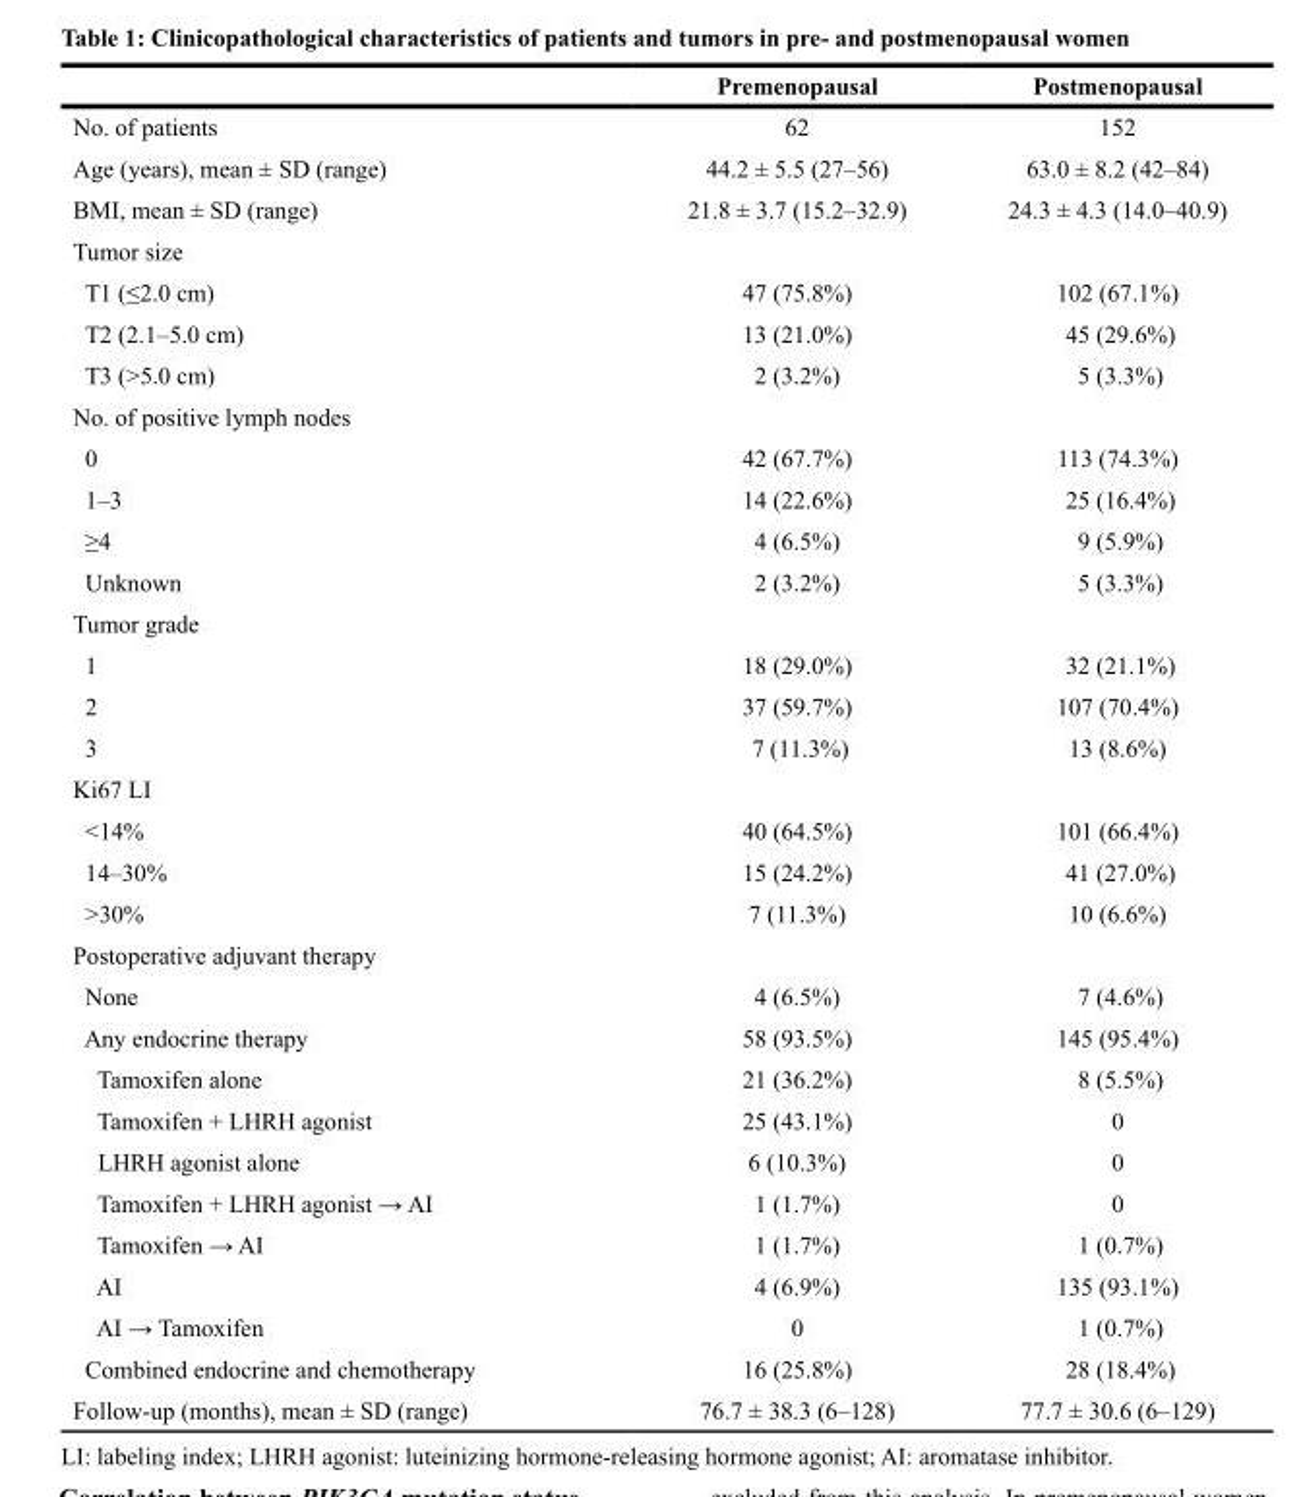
<table><thead><tr><td></td><td>Premenopausal</td><td>Postmenopausal</td></tr></thead><tbody><tr><td>No. of patients</td><td>62</td><td>152</td></tr><tr><td>Age (years), mean ± SD (range)</td><td>44.2 ± 5.5 (27–56)</td><td>63.0 ± 8.2 (42–84)</td></tr><tr><td>BMI, mean ± SD (range)</td><td>21.8 ± 3.7 (15.2–32.9)</td><td>24.3 ± 4.3 (14.0–40.9)</td></tr><tr><td colspan="3">Tumor size</td></tr><tr><td>T1 (≤2.0 cm)</td><td>47 (75.8%)</td><td>102 (67.1%)</td></tr><tr><td>T2 (2.1–5.0 cm)</td><td>13 (21.0%)</td><td>45 (29.6%)</td></tr><tr><td>T3 (&gt;5.0 cm)</td><td>2 (3.2%)</td><td>5 (3.3%)</td></tr><tr><td colspan="3">No. of positive lymph nodes</td></tr><tr><td>0</td><td>42 (67.7%)</td><td>113 (74.3%)</td></tr><tr><td>1–3</td><td>14 (22.6%)</td><td>25 (16.4%)</td></tr><tr><td>≥4</td><td>4 (6.5%)</td><td>9 (5.9%)</td></tr><tr><td>Unknown</td><td>2 (3.2%)</td><td>5 (3.3%)</td></tr><tr><td colspan="3">Tumor grade</td></tr><tr><td>1</td><td>18 (29.0%)</td><td>32 (21.1%)</td></tr><tr><td>2</td><td>37 (59.7%)</td><td>107 (70.4%)</td></tr><tr><td>3</td><td>7 (11.3%)</td><td>13 (8.6%)</td></tr><tr><td colspan="3">Ki67 LI</td></tr><tr><td>&lt;14%</td><td>40 (64.5%)</td><td>101 (66.4%)</td></tr><tr><td>14–30%</td><td>15 (24.2%)</td><td>41 (27.0%)</td></tr><tr><td>&gt;30%</td><td>7 (11.3%)</td><td>10 (6.6%)</td></tr><tr><td colspan="3">Postoperative adjuvant therapy</td></tr><tr><td>None</td><td>4 (6.5%)</td><td>7 (4.6%)</td></tr><tr><td>Any endocrine therapy</td><td>58 (93.5%)</td><td>145 (95.4%)</td></tr><tr><td>Tamoxifen alone</td><td>21 (36.2%)</td><td>8 (5.5%)</td></tr><tr><td>Tamoxifen + LHRH agonist</td><td>25 (43.1%)</td><td>0</td></tr><tr><td>LHRH agonist alone</td><td>6 (10.3%)</td><td>0</td></tr><tr><td>Tamoxifen + LHRH agonist → AI</td><td>1 (1.7%)</td><td>0</td></tr><tr><td>Tamoxifen → AI</td><td>1 (1.7%)</td><td>1 (0.7%)</td></tr><tr><td>AI</td><td>4 (6.9%)</td><td>135 (93.1%)</td></tr><tr><td>AI → Tamoxifen</td><td>0</td><td>1 (0.7%)</td></tr><tr><td>Combined endocrine and chemotherapy</td><td>16 (25.8%)</td><td>28 (18.4%)</td></tr><tr><td>Follow-up (months), mean ± SD (range)</td><td>76.7 ± 38.3 (6–128)</td><td>77.7 ± 30.6 (6–129)</td></tr></tbody></table>